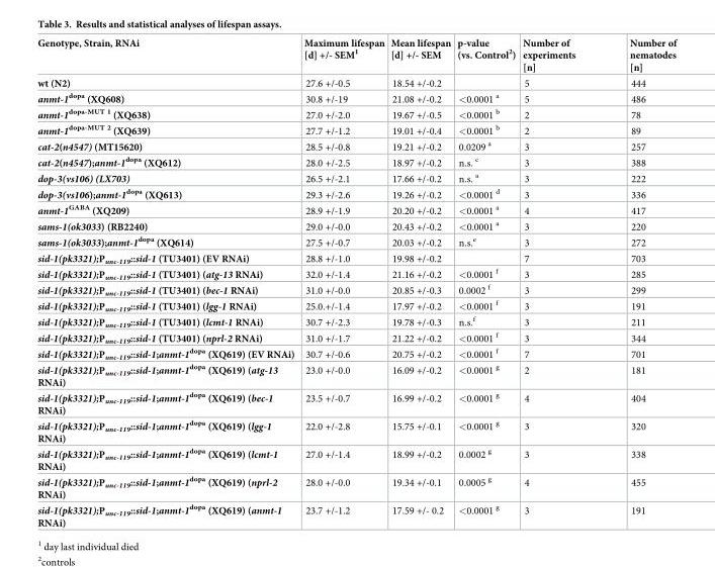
<table><thead><tr><td>Genotype, Strain, RNAi</td><td>Maximum lifespan [d] +/- SEM<sup>1</sup></td><td>Mean lifespan [d] +/- SEM</td><td>p-value (vs. Control<sup>2</sup>)</td><td>Number of experiments [n]</td><td>Number of nematodes [n]</td></tr></thead><tbody><tr><td>wt (N2)</td><td>27.6 +/-0.5</td><td>18.54 +/-0.2</td><td></td><td>5</td><td>444</td></tr><tr><td>anmt-1<sup>dopa</sup> (XQ608)</td><td>30.8 +/-19</td><td>21.08 +/-0.2</td><td>&lt;0.0001 <sup>a</sup></td><td>5</td><td>486</td></tr><tr><td>anmt-1<sup>dopa-MUT 1</sup> (XQ638)</td><td>27.0 +/-2.0</td><td>19.67 +/-0.5</td><td>&lt;0.0001 <sup>b</sup></td><td>2</td><td>78</td></tr><tr><td>anmt-1<sup>dopa-MUT 2</sup> (XQ639)</td><td>27.7 +/-1.2</td><td>19.01 +/-0.4</td><td>&lt;0.0001 <sup>b</sup></td><td>2</td><td>89</td></tr><tr><td>cat-2(n4547) (MT15620)</td><td>28.5 +/-0.8</td><td>19.21 +/-0.2</td><td>0.0209 <sup>a</sup></td><td>3</td><td>257</td></tr><tr><td>cat-2(n4547);anmt-1<sup>dopa</sup> (XQ612)</td><td>28.0 +/-2.5</td><td>18.97 +/-0.2</td><td>n.s. <sup>c</sup></td><td>3</td><td>388</td></tr><tr><td>dop-3(vs106) (LX703)</td><td>26.5 +/-2.1</td><td>17.66 +/-0.2</td><td>n.s. <sup>a</sup></td><td>3</td><td>222</td></tr><tr><td>dop-3(vs106);anmt-1<sup>dopa</sup> (XQ613)</td><td>29.3 +/-2.6</td><td>19.26 +/-0.2</td><td>&lt;0.0001 <sup>d</sup></td><td>3</td><td>336</td></tr><tr><td>anmt-1<sup>GABA</sup> (XQ209)</td><td>28.9 +/-1.9</td><td>20.20 +/-0.2</td><td>&lt;0.0001 <sup>a</sup></td><td>4</td><td>417</td></tr><tr><td>sams-1(ok3033) (RB2240)</td><td>29.0 +/-0.0</td><td>20.43 +/-0.2</td><td>&lt;0.0001 <sup>a</sup></td><td>3</td><td>220</td></tr><tr><td>sams-1(ok3033);anmt-1<sup>dopa</sup> (XQ614)</td><td>27.5 +/-0.7</td><td>20.03 +/-0.2</td><td>n.s.<sup>e</sup></td><td>3</td><td>272</td></tr><tr><td>sid-1(pk3321);P<sub>unc-119</sub>::sid-1 (TU3401) (EV RNAi)</td><td>28.8 +/-1.0</td><td>19.98 +/-0.2</td><td></td><td>7</td><td>703</td></tr><tr><td>sid-1(pk3321);P<sub>unc-119</sub>::sid-1 (TU3401) (atg-13 RNAi)</td><td>32.0 +/-1.4</td><td>21.16 +/-0.2</td><td>&lt;0.0001 <sup>f</sup></td><td>3</td><td>285</td></tr><tr><td>sid-1(pk3321);P<sub>unc-119</sub>::sid-1 (TU3401) (bec-1 RNAi)</td><td>31.0 +/-0.0</td><td>20.85 +/-0.3</td><td>0.0002 <sup>f</sup></td><td>3</td><td>299</td></tr><tr><td>sid-1(pk3321);P<sub>unc-119</sub>::sid-1 (TU3401) (lgg-1 RNAi)</td><td>25.0.+/-1.4</td><td>17.97 +/-0.2</td><td>&lt;0.0001 <sup>f</sup></td><td>3</td><td>191</td></tr><tr><td>sid-1(pk3321);P<sub>unc-119</sub>::sid-1 (TU3401) (lcmt-1 RNAi)</td><td>30.7 +/-2.3</td><td>19.78 +/-0.3</td><td>n.s.<sup>f</sup></td><td>3</td><td>211</td></tr><tr><td>sid-1(pk3321);P<sub>unc-119</sub>::sid-1 (TU3401) (nprl-2 RNAi)</td><td>31.0 +/-1.7</td><td>21.22 +/-0.2</td><td>&lt;0.0001 <sup>f</sup></td><td>3</td><td>344</td></tr><tr><td>sid-1(pk3321);P<sub>unc-119</sub>::sid-1;anmt-1<sup>dopa</sup> (XQ619) (EV RNAi)</td><td>30.7 +/-0.6</td><td>20.75 +/-0.2</td><td>&lt;0.0001 <sup>f</sup></td><td>7</td><td>701</td></tr><tr><td>sid-1(pk3321);P<sub>unc-119</sub>::sid-1;anmt-1<sup>dopa</sup> (XQ619) (atg-13 RNAi)</td><td>23.0 +/-0.0</td><td>16.09 +/-0.2</td><td>&lt;0.0001 <sup>g</sup></td><td>2</td><td>181</td></tr><tr><td>sid-1(pk3321);P<sub>unc-119</sub>::sid-1;anmt-1<sup>dopa</sup> (XQ619) (bec-1 RNAi)</td><td>23.5 +/-0.7</td><td>16.99 +/-0.2</td><td>&lt;0.0001 <sup>g</sup></td><td>4</td><td>404</td></tr><tr><td>sid-1(pk3321);P<sub>unc-119</sub>::sid-1;anmt-1<sup>dopa</sup> (XQ619) (lgg-1 RNAi)</td><td>22.0 +/-2.8</td><td>15.75 +/-0.1</td><td>&lt;0.0001 <sup>g</sup></td><td>3</td><td>320</td></tr><tr><td>sid-1(pk3321);P<sub>unc-119</sub>::sid-1;anmt-1<sup>dopa</sup> (XQ619) (lcmt-1 RNAi)</td><td>27.0 +/-1.4</td><td>18.99 +/-0.2</td><td>0.0002 <sup>g</sup></td><td>3</td><td>338</td></tr><tr><td>sid-1(pk3321);P<sub>unc-119</sub>::sid-1;anmt-1<sup>dopa</sup> (XQ619) (nprl-2 RNAi)</td><td>28.0 +/-0.0</td><td>19.34 +/-0.1</td><td>0.0005 <sup>g</sup></td><td>4</td><td>455</td></tr><tr><td>sid-1(pk3321);P<sub>unc-119</sub>::sid-1;anmt-1<sup>dopa</sup> (XQ619) (anmt-1 RNAi)</td><td>23.7 +/-1.2</td><td>17.59 +/- 0.2</td><td>&lt;0.0001 <sup>g</sup></td><td>3</td><td>191</td></tr></tbody></table>